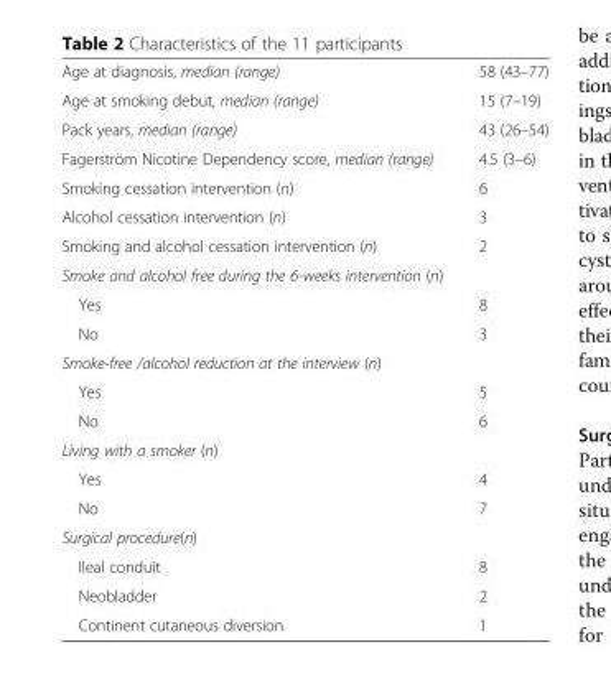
<table><tbody><tr><td>Age at diagnosis, median (range)</td><td>58 (43–77)</td></tr><tr><td>Age at smoking debut, median (range)</td><td>15 (7–19)</td></tr><tr><td>Pack years, median (range)</td><td>43 (26–54)</td></tr><tr><td>Fagerström Nicotine Dependency score, median (range)</td><td>4.5 (3–6)</td></tr><tr><td>Smoking cessation intervention (n)</td><td>6</td></tr><tr><td>Alcohol cessation intervention (n)</td><td>3</td></tr><tr><td>Smoking and alcohol cessation intervention (n)</td><td>2</td></tr><tr><td colspan="2">Smoke and alcohol free during the 6-weeks intervention (n)</td></tr><tr><td>Yes</td><td>8</td></tr><tr><td>No</td><td>3</td></tr><tr><td colspan="2">Smoke-free /alcohol reduction at the interview (n)</td></tr><tr><td>Yes</td><td>5</td></tr><tr><td>No</td><td>6</td></tr><tr><td colspan="2">Living with a smoker (n)</td></tr><tr><td>Yes</td><td>4</td></tr><tr><td>No</td><td>7</td></tr><tr><td colspan="2">Surgical procedure(n)</td></tr><tr><td>Ileal conduit</td><td>8</td></tr><tr><td>Neobladder</td><td>2</td></tr><tr><td>Continent cutaneous diversion</td><td>1</td></tr></tbody></table>